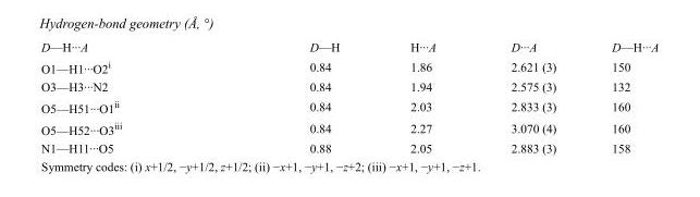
<table><tbody><tr><td>D—H···A</td><td>D—H</td><td>H···A</td><td>D···A</td><td>D—H···A</td></tr><tr><td>O1—H1···O2<sup>i</sup></td><td>0.84</td><td>1.86</td><td>2.621 (3)</td><td>150</td></tr><tr><td>O3—H3···N2</td><td>0.84</td><td>1.94</td><td>2.575 (3)</td><td>132</td></tr><tr><td>O5—H51···O1<sup>ii</sup></td><td>0.84</td><td>2.03</td><td>2.833 (3)</td><td>160</td></tr><tr><td>O5—H52···O3<sup>iii</sup></td><td>0.84</td><td>2.27</td><td>3.070 (4)</td><td>160</td></tr><tr><td>N1—H11···O5</td><td>0.88</td><td>2.05</td><td>2.883 (3)</td><td>158</td></tr></tbody></table>